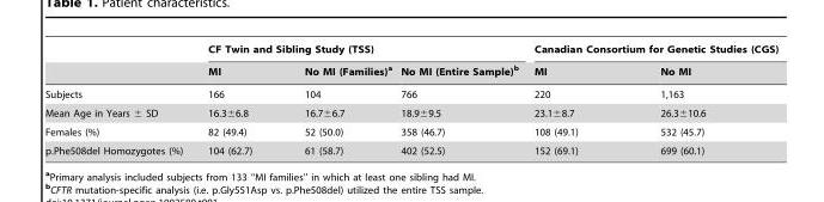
<table><thead><tr><td rowspan="2"></td><td colspan="3">CF Twin and Sibling Study (TSS)</td><td colspan="2">Canadian Consortium for Genetic Studies (CGS)</td></tr><tr><td>MI</td><td>No MI (Families)<sup>a</sup></td><td>No MI (Entire Sample)<sup>b</sup></td><td>MI</td><td>No MI</td></tr></thead><tbody><tr><td>Subjects</td><td>166</td><td>104</td><td>766</td><td>220</td><td>1,163</td></tr><tr><td>Mean Age in Years ± SD</td><td>16.3±6.8</td><td>16.7±6.7</td><td>18.9±9.5</td><td>23.1±8.7</td><td>26.3±10.6</td></tr><tr><td>Females (%)</td><td>82 (49.4)</td><td>52 (50.0)</td><td>358 (46.7)</td><td>108 (49.1)</td><td>532 (45.7)</td></tr><tr><td>p.Phe508del Homozygotes (%)</td><td>104 (62.7)</td><td>61 (58.7)</td><td>402 (52.5)</td><td>152 (69.1)</td><td>699 (60.1)</td></tr></tbody></table>